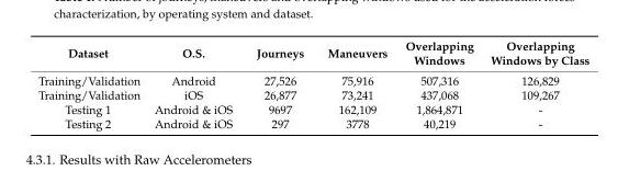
<table><thead><tr><td>Dataset</td><td>O.S.</td><td>Journeys</td><td>Maneuvers</td><td>Overlapping Windows</td><td>Overlapping Windows by Class</td></tr></thead><tbody><tr><td>Training/Validation</td><td>Android</td><td>27,526</td><td>75,916</td><td>507,316</td><td>126,829</td></tr><tr><td>Training/Validation</td><td>iOS</td><td>26,877</td><td>73,241</td><td>437,068</td><td>109,267</td></tr><tr><td>Testing 1</td><td>Android &amp; iOS</td><td>9697</td><td>162,109</td><td>1,864,871</td><td>-</td></tr><tr><td>Testing 2</td><td>Android &amp; iOS</td><td>297</td><td>3778</td><td>40,219</td><td>-</td></tr></tbody></table>